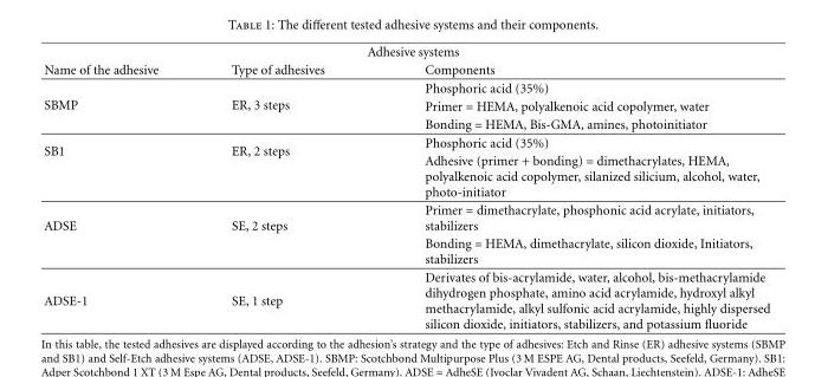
<table><thead><tr><td colspan="3">Adhesive systems</td></tr><tr><td>Name of the adhesive</td><td>Type of adhesives</td><td>Components</td></tr></thead><tbody><tr><td rowspan="3">SBMP</td><td rowspan="3">ER, 3 steps</td><td>Phosphoric acid (35%)</td></tr><tr><td>Primer = HEMA, polyalkenoic acid copolymer, water</td></tr><tr><td>Bonding = HEMA, Bis-GMA, amines, photoinitiator</td></tr><tr><td rowspan="2">SB1</td><td rowspan="2">ER, 2 steps</td><td>Phosphoric acid (35%)</td></tr><tr><td>Adhesive (primer + bonding) = dimethacrylates, HEMA, polyalkenoic acid copolymer, silanized silicium, alcohol, water, photo-initiator</td></tr><tr><td rowspan="2">ADSE</td><td rowspan="2">SE, 2 steps</td><td>Primer = dimethacrylate, phosphonic acid acrylate, initiators, stabilizers</td></tr><tr><td>Bonding = HEMA, dimethacrylate, silicon dioxide, Initiators, stabilizers</td></tr><tr><td>ADSE-1</td><td>SE, 1 step</td><td>Derivates of bis-acrylamide, water, alcohol, bis-methacrylamide dihydrogen phosphate, amino acid acrylamide, hydroxyl alkyl methacrylamide, alkyl sulfonic acid acrylamide, highly dispersed silicon dioxide, initiators, stabilizers, and potassium fluoride</td></tr></tbody></table>